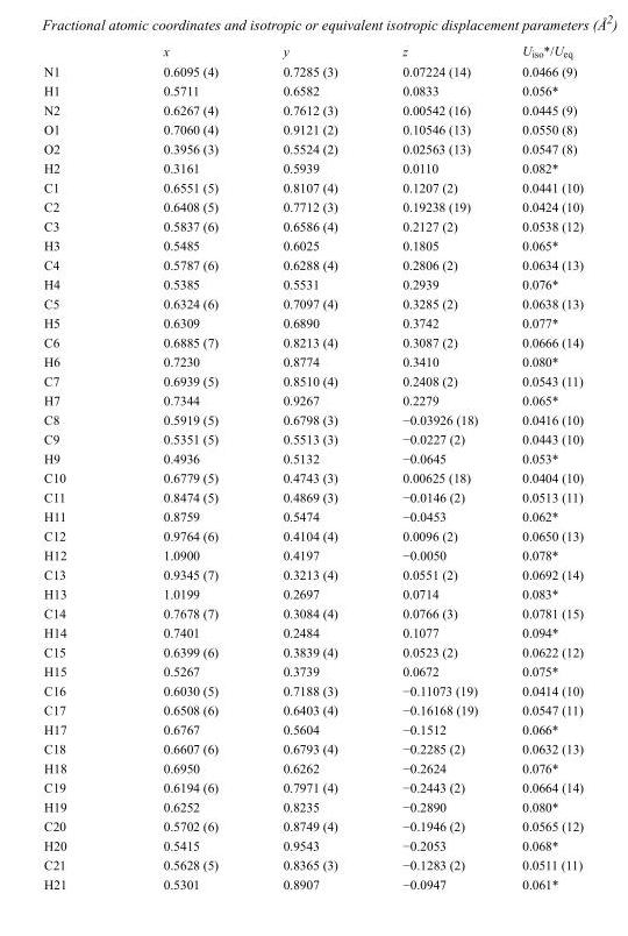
<table><thead><tr><td></td><td>x</td><td>y</td><td>z</td><td>U<sub>iso</sub>*/U<sub>eq</sub></td></tr></thead><tbody><tr><td>N1</td><td>0.6095 (4)</td><td>0.7285 (3)</td><td>0.07224 (14)</td><td>0.0466 (9)</td></tr><tr><td>H1</td><td>0.5711</td><td>0.6582</td><td>0.0833</td><td>0.056*</td></tr><tr><td>N2</td><td>0.6267 (4)</td><td>0.7612 (3)</td><td>0.00542 (16)</td><td>0.0445 (9)</td></tr><tr><td>O1</td><td>0.7060 (4)</td><td>0.9121 (2)</td><td>0.10546 (13)</td><td>0.0550 (8)</td></tr><tr><td>O2</td><td>0.3956 (3)</td><td>0.5524 (2)</td><td>0.02563 (13)</td><td>0.0547 (8)</td></tr><tr><td>H2</td><td>0.3161</td><td>0.5939</td><td>0.0110</td><td>0.082*</td></tr><tr><td>C1</td><td>0.6551 (5)</td><td>0.8107 (4)</td><td>0.1207 (2)</td><td>0.0441 (10)</td></tr><tr><td>C2</td><td>0.6408 (5)</td><td>0.7712 (3)</td><td>0.19238 (19)</td><td>0.0424 (10)</td></tr><tr><td>C3</td><td>0.5837 (6)</td><td>0.6586 (4)</td><td>0.2127 (2)</td><td>0.0538 (12)</td></tr><tr><td>H3</td><td>0.5485</td><td>0.6025</td><td>0.1805</td><td>0.065*</td></tr><tr><td>C4</td><td>0.5787 (6)</td><td>0.6288 (4)</td><td>0.2806 (2)</td><td>0.0634 (13)</td></tr><tr><td>H4</td><td>0.5385</td><td>0.5531</td><td>0.2939</td><td>0.076*</td></tr><tr><td>C5</td><td>0.6324 (6)</td><td>0.7097 (4)</td><td>0.3285 (2)</td><td>0.0638 (13)</td></tr><tr><td>H5</td><td>0.6309</td><td>0.6890</td><td>0.3742</td><td>0.077*</td></tr><tr><td>C6</td><td>0.6885 (7)</td><td>0.8213 (4)</td><td>0.3087 (2)</td><td>0.0666 (14)</td></tr><tr><td>H6</td><td>0.7230</td><td>0.8774</td><td>0.3410</td><td>0.080*</td></tr><tr><td>C7</td><td>0.6939 (5)</td><td>0.8510 (4)</td><td>0.2408 (2)</td><td>0.0543 (11)</td></tr><tr><td>H7</td><td>0.7344</td><td>0.9267</td><td>0.2279</td><td>0.065*</td></tr><tr><td>C8</td><td>0.5919 (5)</td><td>0.6798 (3)</td><td>−0.03926 (18)</td><td>0.0416 (10)</td></tr><tr><td>C9</td><td>0.5351 (5)</td><td>0.5513 (3)</td><td>−0.0227 (2)</td><td>0.0443 (10)</td></tr><tr><td>H9</td><td>0.4936</td><td>0.5132</td><td>−0.0645</td><td>0.053*</td></tr><tr><td>C10</td><td>0.6779 (5)</td><td>0.4743 (3)</td><td>0.00625 (18)</td><td>0.0404 (10)</td></tr><tr><td>C11</td><td>0.8474 (5)</td><td>0.4869 (3)</td><td>−0.0146 (2)</td><td>0.0513 (11)</td></tr><tr><td>H11</td><td>0.8759</td><td>0.5474</td><td>−0.0453</td><td>0.062*</td></tr><tr><td>C12</td><td>0.9764 (6)</td><td>0.4104 (4)</td><td>0.0096 (2)</td><td>0.0650 (13)</td></tr><tr><td>H12</td><td>1.0900</td><td>0.4197</td><td>−0.0050</td><td>0.078*</td></tr><tr><td>C13</td><td>0.9345 (7)</td><td>0.3213 (4)</td><td>0.0551 (2)</td><td>0.0692 (14)</td></tr><tr><td>H13</td><td>1.0199</td><td>0.2697</td><td>0.0714</td><td>0.083*</td></tr><tr><td>C14</td><td>0.7678 (7)</td><td>0.3084 (4)</td><td>0.0766 (3)</td><td>0.0781 (15)</td></tr><tr><td>H14</td><td>0.7401</td><td>0.2484</td><td>0.1077</td><td>0.094*</td></tr><tr><td>C15</td><td>0.6399 (6)</td><td>0.3839 (4)</td><td>0.0523 (2)</td><td>0.0622 (12)</td></tr><tr><td>H15</td><td>0.5267</td><td>0.3739</td><td>0.0672</td><td>0.075*</td></tr><tr><td>C16</td><td>0.6030 (5)</td><td>0.7188 (3)</td><td>−0.11073 (19)</td><td>0.0414 (10)</td></tr><tr><td>C17</td><td>0.6508 (6)</td><td>0.6403 (4)</td><td>−0.16168 (19)</td><td>0.0547 (11)</td></tr><tr><td>H17</td><td>0.6767</td><td>0.5604</td><td>−0.1512</td><td>0.066*</td></tr><tr><td>C18</td><td>0.6607 (6)</td><td>0.6793 (4)</td><td>−0.2285 (2)</td><td>0.0632 (13)</td></tr><tr><td>H18</td><td>0.6950</td><td>0.6262</td><td>−0.2624</td><td>0.076*</td></tr><tr><td>C19</td><td>0.6194 (6)</td><td>0.7971 (4)</td><td>−0.2443 (2)</td><td>0.0664 (14)</td></tr><tr><td>H19</td><td>0.6252</td><td>0.8235</td><td>−0.2890</td><td>0.080*</td></tr><tr><td>C20</td><td>0.5702 (6)</td><td>0.8749 (4)</td><td>−0.1946 (2)</td><td>0.0565 (12)</td></tr><tr><td>H20</td><td>0.5415</td><td>0.9543</td><td>−0.2053</td><td>0.068*</td></tr><tr><td>C21</td><td>0.5628 (5)</td><td>0.8365 (3)</td><td>−0.1283 (2)</td><td>0.0511 (11)</td></tr><tr><td>H21</td><td>0.5301</td><td>0.8907</td><td>−0.0947</td><td>0.061*</td></tr></tbody></table>